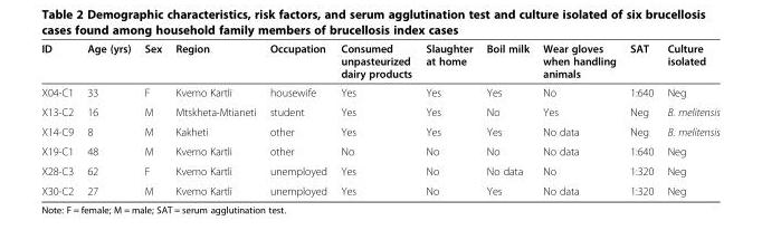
<table><thead><tr><td>ID</td><td>Age (yrs)</td><td>Sex</td><td>Region</td><td>Occupation</td><td>Consumed unpasteurized dairy products</td><td>Slaughter at home</td><td>Boil milk</td><td>Wear gloves when handling animals</td><td>SAT</td><td>Culture isolated</td></tr></thead><tbody><tr><td>X04-C1</td><td>33</td><td>F</td><td>Kvemo Kartli</td><td>housewife</td><td>Yes</td><td>Yes</td><td>Yes</td><td>No</td><td>1:640</td><td>Neg</td></tr><tr><td>X13-C2</td><td>16</td><td>M</td><td>Mtskheta-Mtianeti</td><td>student</td><td>Yes</td><td>Yes</td><td>No</td><td>Yes</td><td>Neg</td><td>B. melitensis</td></tr><tr><td>X14-C9</td><td>8</td><td>M</td><td>Kakheti</td><td>other</td><td>Yes</td><td>Yes</td><td>Yes</td><td>No data</td><td>Neg</td><td>B. melitensis</td></tr><tr><td>X19-C1</td><td>48</td><td>M</td><td>Kvemo Kartli</td><td>other</td><td>No</td><td>No</td><td>No</td><td>No data</td><td>1:640</td><td>Neg</td></tr><tr><td>X28-C3</td><td>62</td><td>F</td><td>Kvemo Kartli</td><td>unemployed</td><td>Yes</td><td>No</td><td>No data</td><td>No</td><td>1:320</td><td>Neg</td></tr><tr><td>X30-C2</td><td>27</td><td>M</td><td>Kvemo Kartli</td><td>unemployed</td><td>Yes</td><td>No</td><td>Yes</td><td>No data</td><td>1:320</td><td>Neg</td></tr></tbody></table>